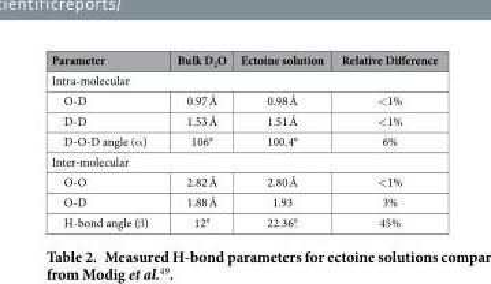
<table><thead><tr><td>Parameter</td><td>Bulk D<sub>2</sub>O</td><td>Ectoine solution</td><td>Relative Difference</td></tr></thead><tbody><tr><td colspan="4">Intra-molecular</td></tr><tr><td>O-D</td><td>0.97 Å</td><td>0.98 Å</td><td>&lt; 1%</td></tr><tr><td>D-D</td><td>1.53 Å</td><td>1.51 Å</td><td>&lt; 1%</td></tr><tr><td>D-O-D angle (α )</td><td>106°</td><td>100.4°</td><td>6%</td></tr><tr><td colspan="4">Inter-molecular</td></tr><tr><td>O-O</td><td>2.82 Å</td><td>2.80 Å</td><td>&lt; 1%</td></tr><tr><td>O-D</td><td>1.88 Å</td><td>1.93</td><td>3%</td></tr><tr><td>H-bond angle (β )</td><td>12°</td><td>22.36°</td><td>45%</td></tr></tbody></table>